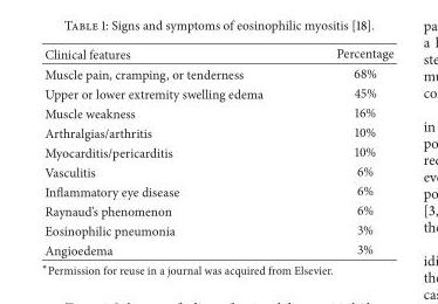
<table><thead><tr><td>Clinical features</td><td>Percentage</td></tr></thead><tbody><tr><td>Muscle pain, cramping, or tenderness</td><td>68%</td></tr><tr><td>Upper or lower extremity swelling edema</td><td>45%</td></tr><tr><td>Muscle weakness</td><td>16%</td></tr><tr><td>Arthralgias/arthritis</td><td>10%</td></tr><tr><td>Myocarditis/pericarditis</td><td>10%</td></tr><tr><td>Vasculitis</td><td>6%</td></tr><tr><td>Inflammatory eye disease</td><td>6%</td></tr><tr><td>Raynaud’s phenomenon</td><td>6%</td></tr><tr><td>Eosinophilic pneumonia</td><td>3%</td></tr><tr><td>Angioedema</td><td>3%</td></tr></tbody></table>